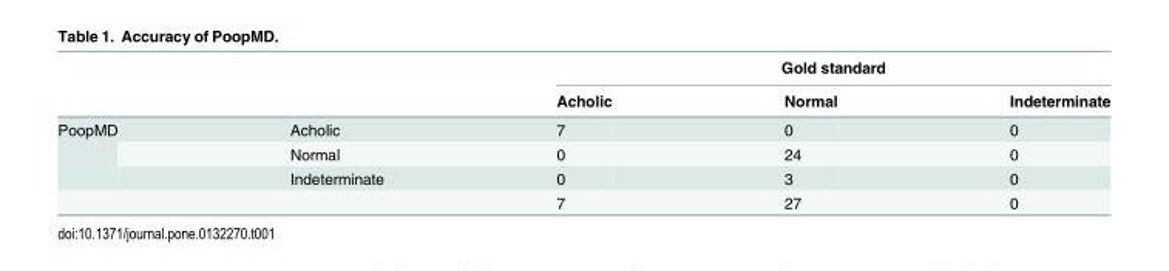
<table><thead><tr><td rowspan="2"></td><td rowspan="2"></td><td colspan="3">Gold standard</td></tr><tr><td>Acholic</td><td>Normal</td><td>Indeterminate</td></tr></thead><tbody><tr><td rowspan="4">PoopMD</td><td>Acholic</td><td>7</td><td>0</td><td>0</td></tr><tr><td>Normal</td><td>0</td><td>24</td><td>0</td></tr><tr><td>Indeterminate</td><td>0</td><td>3</td><td>0</td></tr><tr><td></td><td>7</td><td>27</td><td>0</td></tr></tbody></table>